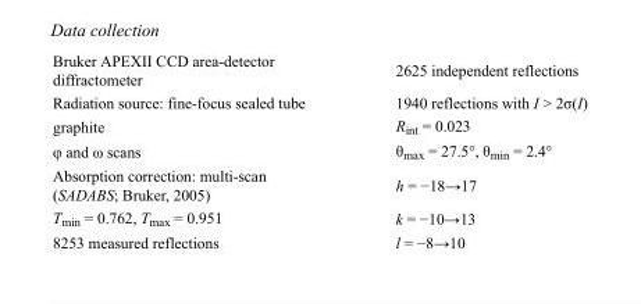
<table><tbody><tr><td>Bruker APEXII CCD area-detector diffractometer</td><td>2625 independent reflections</td></tr><tr><td>Radiation source: fine-focus sealed tube</td><td>1940 reflections with I &gt; 2σ(I)</td></tr><tr><td>graphite</td><td>R<sub>int</sub> = 0.023</td></tr><tr><td>φ and ω scans</td><td>θ<sub>max</sub> = 27.5°, θ<sub>min</sub> = 2.4°</td></tr><tr><td>Absorption correction: multi-scan (SADABS; Bruker, 2005)</td><td>h = −18→17</td></tr><tr><td>T<sub>min</sub> = 0.762, T<sub>max</sub> = 0.951</td><td>k = −10→13</td></tr><tr><td>8253 measured reflections</td><td>l = −8→10</td></tr></tbody></table>